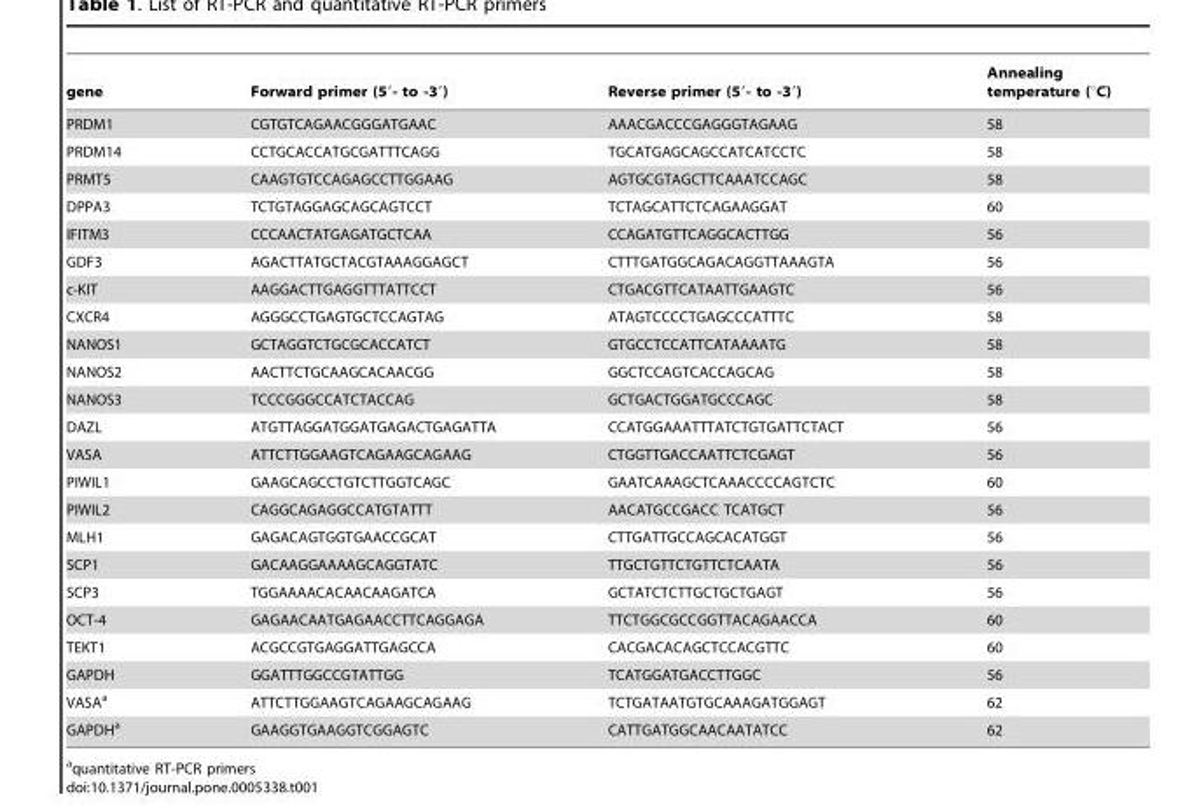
<table><thead><tr><td>gene</td><td>Forward primer (5′- to -3′)</td><td>Reverse primer (5′- to -3′)</td><td>Annealing temperature (°C)</td></tr></thead><tbody><tr><td>PRDM1</td><td>CGTGTCAGAACGGGATGAAC</td><td>AAACGACCCGAGGGTAGAAG</td><td>58</td></tr><tr><td>PRDM14</td><td>CCTGCACCATGCGATTTCAGG</td><td>TGCATGAGCAGCCATCATCCTC</td><td>58</td></tr><tr><td>PRMT5</td><td>CAAGTGTCCAGAGCCTTGGAAG</td><td>AGTGCGTAGCTTCAAATCCAGC</td><td>58</td></tr><tr><td>DPPA3</td><td>TCTGTAGGAGCAGCAGTCCT</td><td>TCTAGCATTCTCAGAAGGAT</td><td>60</td></tr><tr><td>IFITM3</td><td>CCCAACTATGAGATGCTCAA</td><td>CCAGATGTTCAGGCACTTGG</td><td>56</td></tr><tr><td>GDF3</td><td>AGACTTATGCTACGTAAAGGAGCT</td><td>CTTTGATGGCAGACAGGTTAAAGTA</td><td>56</td></tr><tr><td>c-KIT</td><td>AAGGACTTGAGGTTTATTCCT</td><td>CTGACGTTCATAATTGAAGTC</td><td>56</td></tr><tr><td>CXCR4</td><td>AGGGCCTGAGTGCTCCAGTAG</td><td>ATAGTCCCCTGAGCCCATTTC</td><td>58</td></tr><tr><td>NANOS1</td><td>GCTAGGTCTGCGCACCATCT</td><td>GTGCCTCCATTCATAAAATG</td><td>58</td></tr><tr><td>NANOS2</td><td>AACTTCTGCAAGCACAACGG</td><td>GGCTCCAGTCACCAGCAG</td><td>58</td></tr><tr><td>NANOS3</td><td>TCCCGGGCCATCTACCAG</td><td>GCTGACTGGATGCCCAGC</td><td>58</td></tr><tr><td>DAZL</td><td>ATGTTAGGATGGATGAGACTGAGATTA</td><td>CCATGGAAATTTATCTGTGATTCTACT</td><td>56</td></tr><tr><td>VASA</td><td>ATTCTTGGAAGTCAGAAGCAGAAG</td><td>CTGGTTGACCAATTCTCGAGT</td><td>56</td></tr><tr><td>PIWIL1</td><td>GAAGCAGCCTGTCTTGGTCAGC</td><td>GAATCAAAGCTCAAACCCCAGTCTC</td><td>60</td></tr><tr><td>PIWIL2</td><td>CAGGCAGAGGCCATGTATTT</td><td>AACATGCCGACC TCATGCT</td><td>56</td></tr><tr><td>MLH1</td><td>GAGACAGTGGTGAACCGCAT</td><td>CTTGATTGCCAGCACATGGT</td><td>56</td></tr><tr><td>SCP1</td><td>GACAAGGAAAAGCAGGTATC</td><td>TTGCTGTTCTGTTCTCAATA</td><td>56</td></tr><tr><td>SCP3</td><td>TGGAAAACACAACAAGATCA</td><td>GCTATCTCTTGCTGCTGAGT</td><td>56</td></tr><tr><td>OCT-4</td><td>GAGAACAATGAGAACCTTCAGGAGA</td><td>TTCTGGCGCCGGTTACAGAACCA</td><td>60</td></tr><tr><td>TEKT1</td><td>ACGCCGTGAGGATTGAGCCA</td><td>CACGACACAGCTCCACGTTC</td><td>60</td></tr><tr><td>GAPDH</td><td>GGATTTGGCCGTATTGG</td><td>TCATGGATGACCTTGGC</td><td>56</td></tr><tr><td>VASA<sup>a</sup></td><td>ATTCTTGGAAGTCAGAAGCAGAAG</td><td>TCTGATAATGTGCAAAGATGGAGT</td><td>62</td></tr><tr><td>GAPDH<sup>a</sup></td><td>GAAGGTGAAGGTCGGAGTC</td><td>CATTGATGGCAACAATATCC</td><td>62</td></tr></tbody></table>